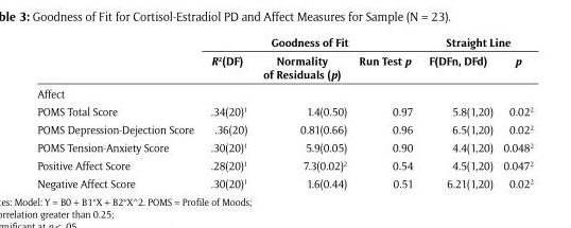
<table><thead><tr><td rowspan="2"></td><td colspan="3">Goodness of Fit</td><td colspan="2">Straight Line</td></tr><tr><td>R<sup>2</sup>(DF)</td><td>Normality of Residuals (p)</td><td>Run Test p</td><td>F(DFn, DFd)</td><td>p</td></tr></thead><tbody><tr><td colspan="6">Affect</td></tr><tr><td>POMS Total Score</td><td>.34(20)<sup>1</sup></td><td>1.4(0.50)</td><td>0.97</td><td>5.8(1,20)</td><td>0.02<sup>2</sup></td></tr><tr><td>POMS Depression-Dejection Score</td><td>.36(20)</td><td>0.81(0.66)</td><td>0.96</td><td>6.5(1,20)</td><td>0.02<sup>2</sup></td></tr><tr><td>POMS Tension-Anxiety Score</td><td>.30(20)<sup>1</sup></td><td>5.9(0.05)</td><td>0.90</td><td>4.4(1,20)</td><td>0.048<sup>2</sup></td></tr><tr><td>Positive Affect Score</td><td>.28(20)<sup>1</sup></td><td>7.3(0.02)<sup>2</sup></td><td>0.54</td><td>4.5(1,20)</td><td>0.047<sup>2</sup></td></tr><tr><td>Negative Affect Score</td><td>.30(20)<sup>1</sup></td><td>1.6(0.44)</td><td>0.51</td><td>6.21(1,20)</td><td>0.02<sup>2</sup></td></tr></tbody></table>